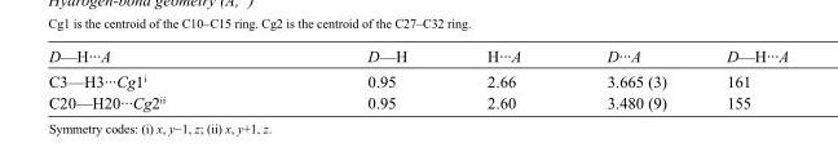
<table><tbody><tr><td>D—H···A</td><td>D—H</td><td>H···A</td><td>D···A</td><td>D—H···A</td></tr><tr><td>C3—H3···Cg1<sup>i</sup></td><td>0.95</td><td>2.66</td><td>3.665 (3)</td><td>161</td></tr><tr><td>C20—H20···Cg2<sup>ii</sup></td><td>0.95</td><td>2.60</td><td>3.480 (9)</td><td>155</td></tr></tbody></table>